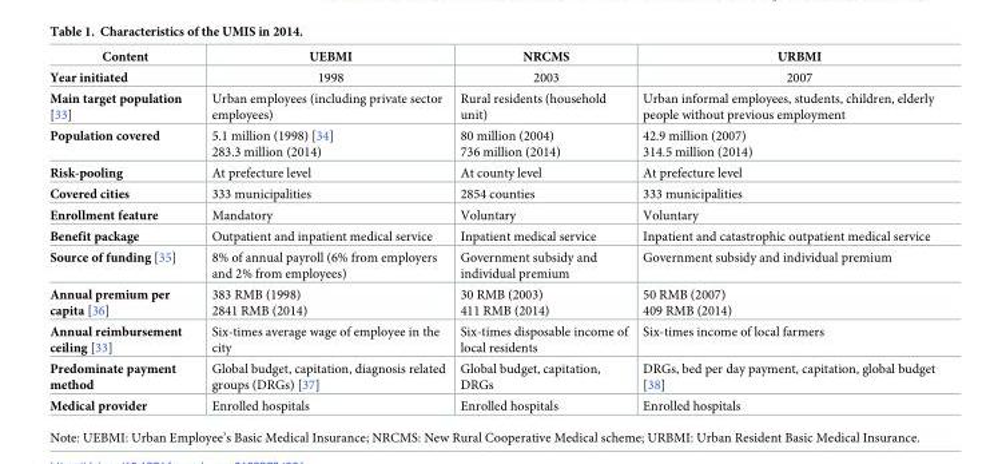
<table><thead><tr><td>Content</td><td>UEBMI</td><td>NRCMS</td><td>URBMI</td></tr></thead><tbody><tr><td>Year initiated</td><td>1998</td><td>2003</td><td>2007</td></tr><tr><td>Main target population [33]</td><td>Urban employees (including private sector employees)</td><td>Rural residents (household unit)</td><td>Urban informal employees, students, children, elderly people without previous employment</td></tr><tr><td>Population covered</td><td>5.1 million (1998) [34] 283.3 million (2014)</td><td>80 million (2004) 736 million (2014)</td><td>42.9 million (2007) 314.5 million (2014)</td></tr><tr><td>Risk-pooling</td><td>At prefecture level</td><td>At county level</td><td>At prefecture level</td></tr><tr><td>Covered cities</td><td>333 municipalities</td><td>2854 counties</td><td>333 municipalities</td></tr><tr><td>Enrollment feature</td><td>Mandatory</td><td>Voluntary</td><td>Voluntary</td></tr><tr><td>Benefit package</td><td>Outpatient and inpatient medical service</td><td>Inpatient medical service</td><td>Inpatient and catastrophic outpatient medical service</td></tr><tr><td>Source of funding [35]</td><td>8% of annual payroll (6% from employers and 2% from employees)</td><td>Government subsidy and individual premium</td><td>Government subsidy and individual premium</td></tr><tr><td>Annual premium per capita [36]</td><td>383 RMB (1998) 2841 RMB (2014)</td><td>30 RMB (2003) 411 RMB (2014)</td><td>50 RMB (2007) 409 RMB (2014)</td></tr><tr><td>Annual reimbursement ceiling [33]</td><td>Six-times average wage of employee in the city</td><td>Six-times disposable income of local residents</td><td>Six-times income of local farmers</td></tr><tr><td>Predominate payment method</td><td>Global budget, capitation, diagnosis related groups (DRGs) [37]</td><td>Global budget, capitation, DRGs</td><td>DRGs, bed per day payment, capitation, global budget [38]</td></tr><tr><td>Medical provider</td><td>Enrolled hospitals</td><td>Enrolled hospitals</td><td>Enrolled hospitals</td></tr></tbody></table>